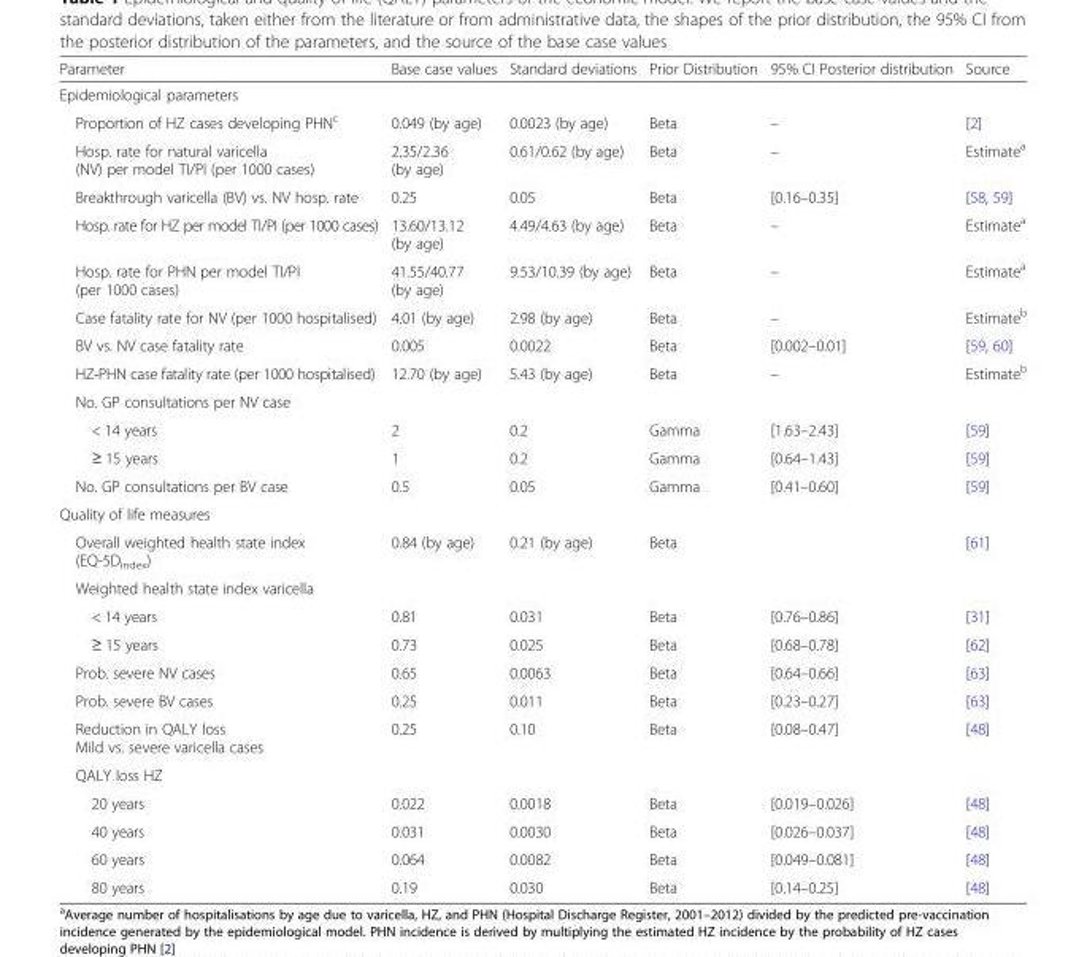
<table><thead><tr><td>Parameter</td><td>Base case values</td><td>Standard deviations</td><td>Prior Distribution</td><td>95% CI Posterior distribution</td><td>Source</td></tr></thead><tbody><tr><td colspan="6">Epidemiological parameters</td></tr><tr><td>Proportion of HZ cases developing PHN<sup>c</sup></td><td>0.049 (by age)</td><td>0.0023 (by age)</td><td>Beta</td><td>–</td><td>[2]</td></tr><tr><td>Hosp. rate for natural varicella (NV) per model TI/PI (per 1000 cases)</td><td>2.35/2.36 (by age)</td><td>0.61/0.62 (by age)</td><td>Beta</td><td>–</td><td>Estimate<sup>a</sup></td></tr><tr><td>Breakthrough varicella (BV) vs. NV hosp. rate</td><td>0.25</td><td>0.05</td><td>Beta</td><td>[0.16–0.35]</td><td>[58, 59]</td></tr><tr><td>Hosp. rate for HZ per model TI/PI (per 1000 cases)</td><td>13.60/13.12 (by age)</td><td>4.49/4.63 (by age)</td><td>Beta</td><td>–</td><td>Estimate<sup>a</sup></td></tr><tr><td>Hosp. rate for PHN per model TI/PI (per 1000 cases)</td><td>41.55/40.77 (by age)</td><td>9.53/10.39 (by age)</td><td>Beta</td><td>–</td><td>Estimate<sup>a</sup></td></tr><tr><td>Case fatality rate for NV (per 1000 hospitalised)</td><td>4.01 (by age)</td><td>2.98 (by age)</td><td>Beta</td><td>–</td><td>Estimate<sup>b</sup></td></tr><tr><td>BV vs. NV case fatality rate</td><td>0.005</td><td>0.0022</td><td>Beta</td><td>[0.002–0.01]</td><td>[59, 60]</td></tr><tr><td>HZ-PHN case fatality rate (per 1000 hospitalised)</td><td>12.70 (by age)</td><td>5.43 (by age)</td><td>Beta</td><td>–</td><td>Estimate<sup>b</sup></td></tr><tr><td colspan="6">No. GP consultations per NV case</td></tr><tr><td>&lt; 14 years</td><td>2</td><td>0.2</td><td>Gamma</td><td>[1.63–2.43]</td><td>[59]</td></tr><tr><td>≥ 15 years</td><td>1</td><td>0.2</td><td>Gamma</td><td>[0.64–1.43]</td><td>[59]</td></tr><tr><td>No. GP consultations per BV case</td><td>0.5</td><td>0.05</td><td>Gamma</td><td>[0.41–0.60]</td><td>[59]</td></tr><tr><td colspan="6">Quality of life measures</td></tr><tr><td>Overall weighted health state index (EQ-5D<sub>index</sub>)</td><td>0.84 (by age)</td><td>0.21 (by age)</td><td>Beta</td><td></td><td>[61]</td></tr><tr><td colspan="6">Weighted health state index varicella</td></tr><tr><td>&lt; 14 years</td><td>0.81</td><td>0.031</td><td>Beta</td><td>[0.76–0.86]</td><td>[31]</td></tr><tr><td>≥ 15 years</td><td>0.73</td><td>0.025</td><td>Beta</td><td>[0.68–0.78]</td><td>[62]</td></tr><tr><td>Prob. severe NV cases</td><td>0.65</td><td>0.0063</td><td>Beta</td><td>[0.64–0.66]</td><td>[63]</td></tr><tr><td>Prob. severe BV cases</td><td>0.25</td><td>0.011</td><td>Beta</td><td>[0.23–0.27]</td><td>[63]</td></tr><tr><td>Reduction in QALY loss Mild vs. severe varicella cases</td><td>0.25</td><td>0.10</td><td>Beta</td><td>[0.08–0.47]</td><td>[48]</td></tr><tr><td colspan="6">QALY loss HZ</td></tr><tr><td>20 years</td><td>0.022</td><td>0.0018</td><td>Beta</td><td>[0.019–0.026]</td><td>[48]</td></tr><tr><td>40 years</td><td>0.031</td><td>0.0030</td><td>Beta</td><td>[0.026–0.037]</td><td>[48]</td></tr><tr><td>60 years</td><td>0.064</td><td>0.0082</td><td>Beta</td><td>[0.049–0.081]</td><td>[48]</td></tr><tr><td>80 years</td><td>0.19</td><td>0.030</td><td>Beta</td><td>[0.14–0.25]</td><td>[48]</td></tr></tbody></table>